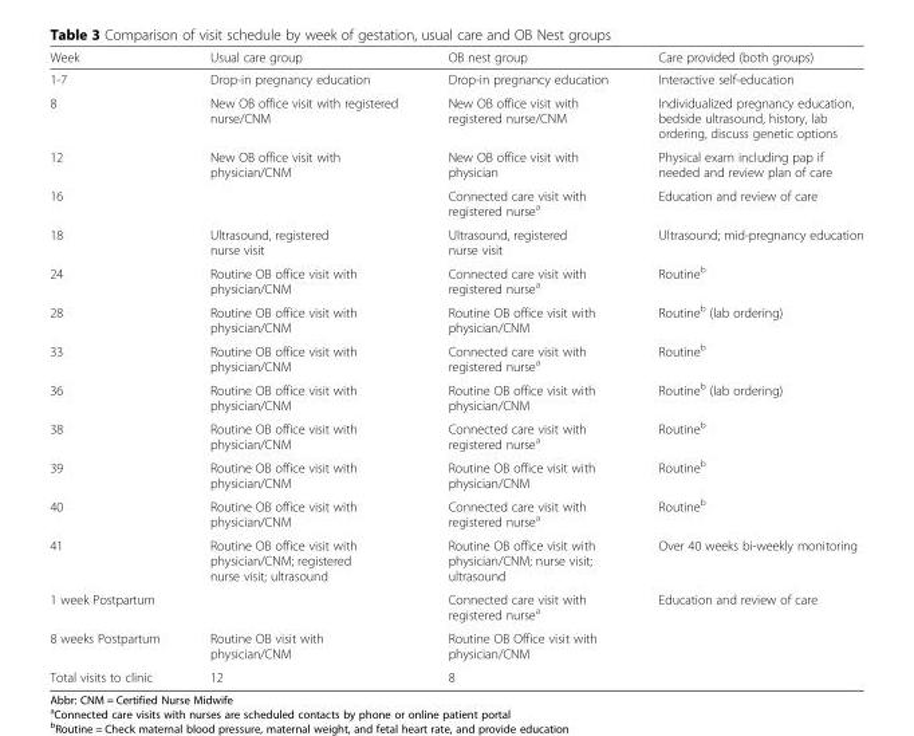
<table><thead><tr><td>Week</td><td>Usual care group</td><td>OB nest group</td><td>Care provided (both groups)</td></tr></thead><tbody><tr><td>1-7</td><td>Drop-in pregnancy education</td><td>Drop-in pregnancy education</td><td>Interactive self-education</td></tr><tr><td>8</td><td>New OB office visit with registered nurse/CNM</td><td>New OB office visit with registered nurse/CNM</td><td>Individualized pregnancy education, bedside ultrasound, history, lab ordering, discuss genetic options</td></tr><tr><td>12</td><td>New OB office visit with physician/CNM</td><td>New OB office visit with physician</td><td>Physical exam including pap if needed and review plan of care</td></tr><tr><td>16</td><td></td><td>Connected care visit with registered nurse<sup>a</sup></td><td>Education and review of care</td></tr><tr><td>18</td><td>Ultrasound, registered nurse visit</td><td>Ultrasound, registered nurse visit</td><td>Ultrasound; mid-pregnancy education</td></tr><tr><td>24</td><td>Routine OB office visit with physician/CNM</td><td>Connected care visit with registered nurse<sup>a</sup></td><td>Routine<sup>b</sup></td></tr><tr><td>28</td><td>Routine OB office visit with physician/CNM</td><td>Routine OB office visit with physician/CNM</td><td>Routine<sup>b</sup> (lab ordering)</td></tr><tr><td>33</td><td>Routine OB office visit with physician/CNM</td><td>Connected care visit with registered nurse<sup>a</sup></td><td>Routine<sup>b</sup></td></tr><tr><td>36</td><td>Routine OB office visit with physician/CNM</td><td>Routine OB office visit with physician/CNM</td><td>Routine<sup>b</sup> (lab ordering)</td></tr><tr><td>38</td><td>Routine OB office visit with physician/CNM</td><td>Connected care visit with registered nurse<sup>a</sup></td><td>Routine<sup>b</sup></td></tr><tr><td>39</td><td>Routine OB office visit with physician/CNM</td><td>Routine OB office visit with physician/CNM</td><td>Routine<sup>b</sup></td></tr><tr><td>40</td><td>Routine OB office visit with physician/CNM</td><td>Connected care visit with registered nurse<sup>a</sup></td><td>Routine<sup>b</sup></td></tr><tr><td>41</td><td>Routine OB office visit with physician/CNM; registered nurse visit; ultrasound</td><td>Routine OB office visit with physician/CNM; nurse visit; ultrasound</td><td>Over 40 weeks bi-weekly monitoring</td></tr><tr><td>1 week Postpartum</td><td></td><td>Connected care visit with registered nurse<sup>a</sup></td><td>Education and review of care</td></tr><tr><td>8 weeks Postpartum</td><td>Routine OB visit with physician/CNM</td><td>Routine OB Office visit with physician/CNM</td><td></td></tr><tr><td>Total visits to clinic</td><td>12</td><td>8</td><td></td></tr></tbody></table>